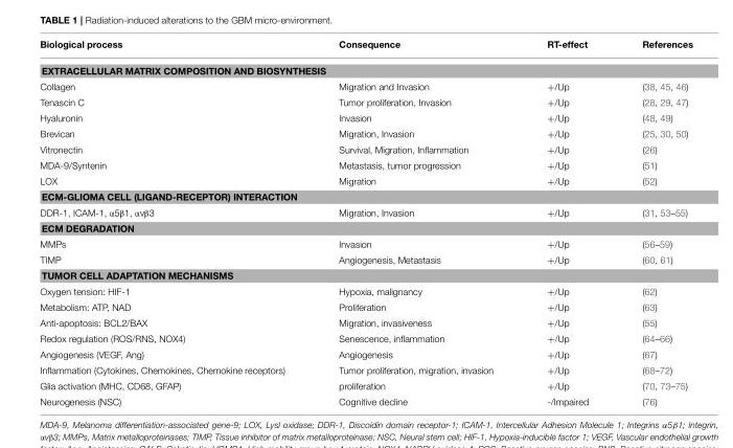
<table><thead><tr><td>Biological process</td><td>Consequence</td><td>RT-effect</td><td>References</td></tr></thead><tbody><tr><td colspan="4">EXTRACELLULAR MATRIX COMPOSITION AND BIOSYNTHESIS</td></tr><tr><td>Collagen</td><td>Migration and Invasion</td><td>+/Up</td><td>(38, 45, 46)</td></tr><tr><td>Tenascin C</td><td>Tumor proliferation, Invasion</td><td>+/Up</td><td>(28, 29, 47)</td></tr><tr><td>Hyaluronin</td><td>Invasion</td><td>+/Up</td><td>(48, 49)</td></tr><tr><td>Brevican</td><td>Migration, Invasion</td><td>+/Up</td><td>(25, 30, 50)</td></tr><tr><td>Vitronectin</td><td>Survival, Migration, Inflammation</td><td>+/Up</td><td>(26)</td></tr><tr><td>MDA-9/Syntenin</td><td>Metastasis, tumor progression</td><td>+/Up</td><td>(51)</td></tr><tr><td>LOX</td><td>Migration</td><td>+/Up</td><td>(52)</td></tr><tr><td colspan="4">ECM-GLIOMA CELL (LIGAND-RECEPTOR) INTERACTION</td></tr><tr><td>DDR-1, ICAM-1, α5β1, αvβ3</td><td>Migration, Invasion</td><td>+/Up</td><td>(31, 53–55)</td></tr><tr><td colspan="4">ECM DEGRADATION</td></tr><tr><td>MMPs</td><td>Invasion</td><td>+/Up</td><td>(56–59)</td></tr><tr><td>TIMP</td><td>Angiogenesis, Metastasis</td><td>+/Up</td><td>(60, 61)</td></tr><tr><td colspan="4">TUMOR CELL ADAPTATION MECHANISMS</td></tr><tr><td>Oxygen tension: HIF-1</td><td>Hypoxia, malignancy</td><td>+/Up</td><td>(62)</td></tr><tr><td>Metabolism: ATP, NAD</td><td>Proliferation</td><td>+/Up</td><td>(63)</td></tr><tr><td>Anti-apoptosis: BCL2/BAX</td><td>Migration, invasiveness</td><td>+/Up</td><td>(55)</td></tr><tr><td>Redox regulation (ROS/RNS, NOX4)</td><td>Senescence, inflammation</td><td>+/Up</td><td>(64–66)</td></tr><tr><td>Angiogenesis (VEGF, Ang)</td><td>Angiogenesis</td><td>+/Up</td><td>(67)</td></tr><tr><td>Inflammation (Cytokines, Chemokines, Chemokine receptors)</td><td>Tumor proliferation, migration, invasion</td><td>+/Up</td><td>(68–72)</td></tr><tr><td>Glia activation (MHC, CD68, GFAP)</td><td>proliferation</td><td>+/Up</td><td>(70, 73–75)</td></tr><tr><td>Neurogenesis (NSC)</td><td>Cognitive decline</td><td>-/Impaired</td><td>(76)</td></tr></tbody></table>